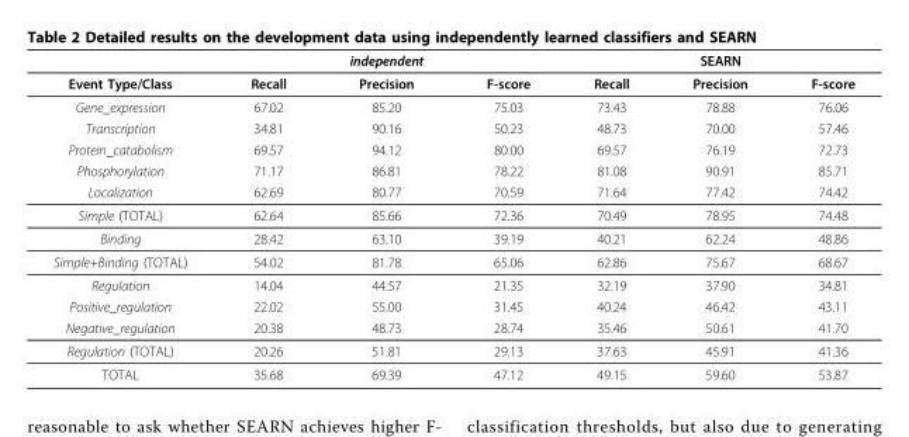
<table><thead><tr><td></td><td></td><td>independent</td><td></td><td></td><td>SEARN</td><td></td></tr></thead><tbody><tr><td>Event Type/Class</td><td>Recall</td><td>Precision</td><td>F-score</td><td>Recall</td><td>Precision</td><td>F-score</td></tr><tr><td>Gene_expression</td><td>67.02</td><td>85.20</td><td>75.03</td><td>73.43</td><td>78.88</td><td>76.06</td></tr><tr><td>Transcription</td><td>34.81</td><td>90.16</td><td>50.23</td><td>48.73</td><td>70.00</td><td>57.46</td></tr><tr><td>Protein_catabolism</td><td>69.57</td><td>94.12</td><td>80.00</td><td>69.57</td><td>76.19</td><td>72.73</td></tr><tr><td>Phosphorylation</td><td>71.17</td><td>86.81</td><td>78.22</td><td>81.08</td><td>90.91</td><td>85.71</td></tr><tr><td>Localization</td><td>62.69</td><td>80.77</td><td>70.59</td><td>71.64</td><td>77.42</td><td>74.42</td></tr><tr><td>Simple (TOTAL)</td><td>62.64</td><td>85.66</td><td>72.36</td><td>70.49</td><td>78.95</td><td>74.48</td></tr><tr><td>Binding</td><td>28.42</td><td>63.10</td><td>39.19</td><td>40.21</td><td>62.24</td><td>48.86</td></tr><tr><td>Simple+Binding (TOTAL)</td><td>54.02</td><td>81.78</td><td>65.06</td><td>62.86</td><td>75.67</td><td>68.67</td></tr><tr><td>Regulation</td><td>14.04</td><td>44.57</td><td>21.35</td><td>32.19</td><td>37.90</td><td>34.81</td></tr><tr><td>Positive_regulation</td><td>22.02</td><td>55.00</td><td>31.45</td><td>40.24</td><td>46.42</td><td>43.11</td></tr><tr><td>Negative_regulation</td><td>20.38</td><td>48.73</td><td>28.74</td><td>35.46</td><td>50.61</td><td>41.70</td></tr><tr><td>Regulation (TOTAL)</td><td>20.26</td><td>51.81</td><td>29.13</td><td>37.63</td><td>45.91</td><td>41.36</td></tr><tr><td>TOTAL</td><td>35.68</td><td>69.39</td><td>47.12</td><td>49.15</td><td>59.60</td><td>53.87</td></tr></tbody></table>